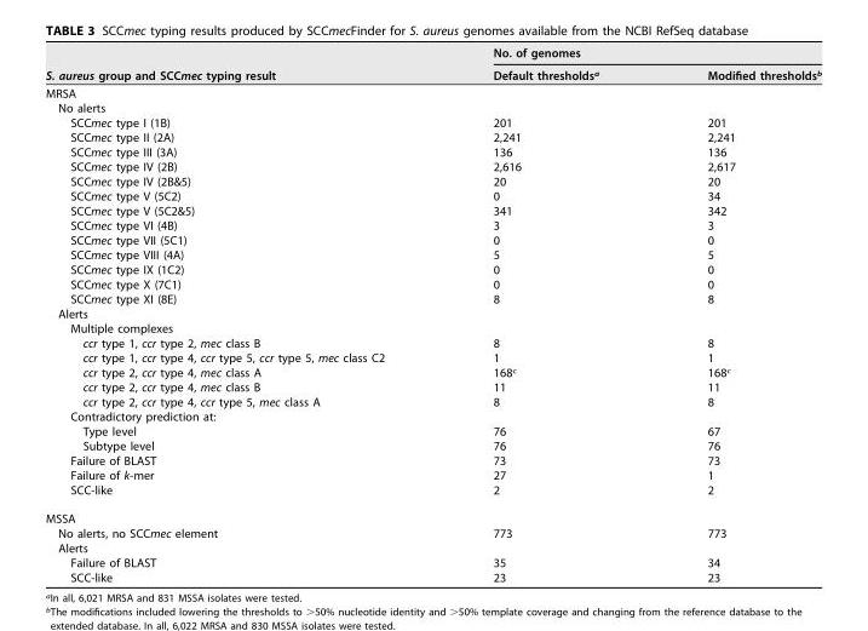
<table><thead><tr><td rowspan="2">S. aureus group and SCCmec typing result</td><td colspan="2">No. of genomes</td></tr><tr><td>Default thresholds<sup>a</sup></td><td>Modified thresholds<sup>b</sup></td></tr></thead><tbody><tr><td colspan="3">MRSA</td></tr><tr><td colspan="3">No alerts</td></tr><tr><td>SCCmec type I (1B)</td><td>201</td><td>201</td></tr><tr><td>SCCmec type II (2A)</td><td>2,241</td><td>2,241</td></tr><tr><td>SCCmec type III (3A)</td><td>136</td><td>136</td></tr><tr><td>SCCmec type IV (2B)</td><td>2,616</td><td>2,617</td></tr><tr><td>SCCmec type IV (2B&amp;5)</td><td>20</td><td>20</td></tr><tr><td>SCCmec type V (5C2)</td><td>0</td><td>34</td></tr><tr><td>SCCmec type V (5C2&amp;5)</td><td>341</td><td>342</td></tr><tr><td>SCCmec type VI (4B)</td><td>3</td><td>3</td></tr><tr><td>SCCmec type VII (5C1)</td><td>0</td><td>0</td></tr><tr><td>SCCmec type VIII (4A)</td><td>5</td><td>5</td></tr><tr><td>SCCmec type IX (1C2)</td><td>0</td><td>0</td></tr><tr><td>SCCmec type X (7C1)</td><td>0</td><td>0</td></tr><tr><td>SCCmec type XI (8E)</td><td>8</td><td>8</td></tr><tr><td colspan="3">Alerts</td></tr><tr><td colspan="3">Multiple complexes</td></tr><tr><td>ccr type 1, ccr type 2, mec class B</td><td>8</td><td>8</td></tr><tr><td>ccr type 1, ccr type 4, ccr type 5, ccr type 5, mec class C2</td><td>1</td><td>1</td></tr><tr><td>ccr type 2, ccr type 4, mec class A</td><td>168<sup>c</sup></td><td>168<sup>c</sup></td></tr><tr><td>ccr type 2, ccr type 4, mec class B</td><td>11</td><td>11</td></tr><tr><td>ccr type 2, ccr type 4, ccr type 5, mec class A</td><td>8</td><td>8</td></tr><tr><td colspan="3">Contradictory prediction at:</td></tr><tr><td>Type level</td><td>76</td><td>67</td></tr><tr><td>Subtype level</td><td>76</td><td>76</td></tr><tr><td>Failure of BLAST</td><td>73</td><td>73</td></tr><tr><td>Failure of k-mer</td><td>27</td><td>1</td></tr><tr><td>SCC-like</td><td>2</td><td>2</td></tr><tr><td colspan="3">MSSA</td></tr><tr><td>No alerts, no SCCmec element</td><td>773</td><td>773</td></tr><tr><td colspan="3">Alerts</td></tr><tr><td>Failure of BLAST</td><td>35</td><td>34</td></tr><tr><td>SCC-like</td><td>23</td><td>23</td></tr></tbody></table>